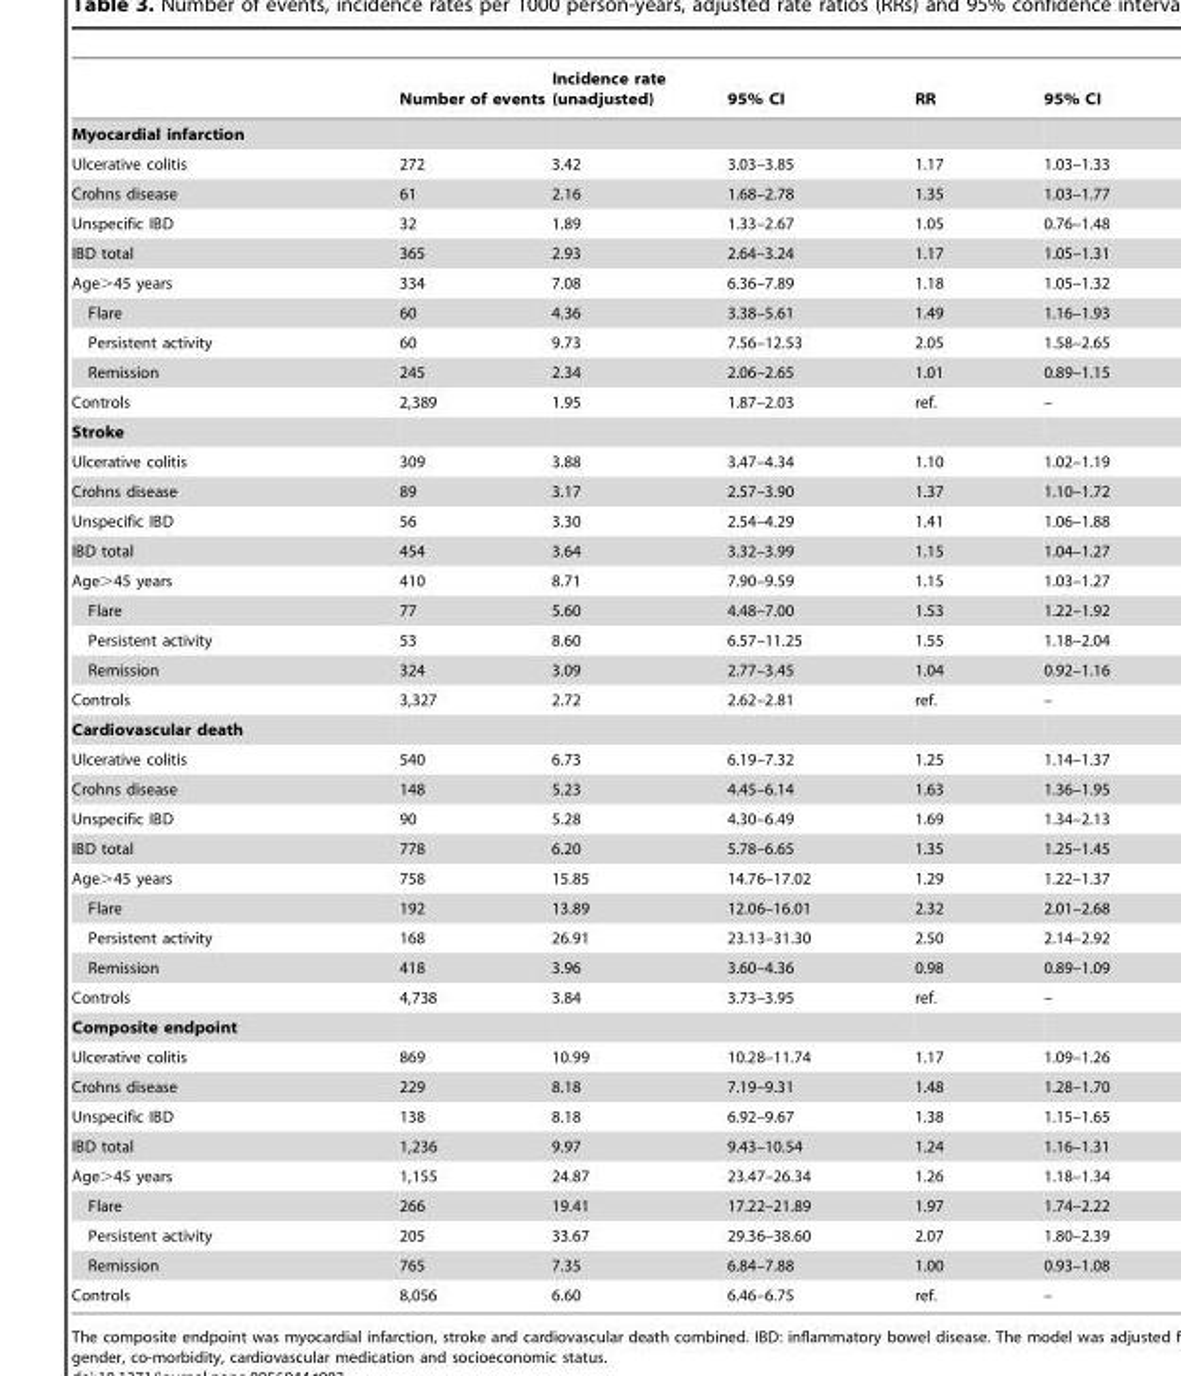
<table><thead><tr><td></td><td>Number of events</td><td>Incidence rate (unadjusted)</td><td>95% CI</td><td>RR</td><td>95% CI</td></tr></thead><tbody><tr><td colspan="6">Myocardial infarction</td></tr><tr><td>Ulcerative colitis</td><td>272</td><td>3.42</td><td>3.03–3.85</td><td>1.17</td><td>1.03–1.33</td></tr><tr><td>Crohns disease</td><td>61</td><td>2.16</td><td>1.68–2.78</td><td>1.35</td><td>1.03–1.77</td></tr><tr><td>Unspecific IBD</td><td>32</td><td>1.89</td><td>1.33–2.67</td><td>1.05</td><td>0.76–1.48</td></tr><tr><td>IBD total</td><td>365</td><td>2.93</td><td>2.64–3.24</td><td>1.17</td><td>1.05–1.31</td></tr><tr><td>Age&gt;45 years</td><td>334</td><td>7.08</td><td>6.36–7.89</td><td>1.18</td><td>1.05–1.32</td></tr><tr><td>Flare</td><td>60</td><td>4.36</td><td>3.38–5.61</td><td>1.49</td><td>1.16–1.93</td></tr><tr><td>Persistent activity</td><td>60</td><td>9.73</td><td>7.56–12.53</td><td>2.05</td><td>1.58–2.65</td></tr><tr><td>Remission</td><td>245</td><td>2.34</td><td>2.06–2.65</td><td>1.01</td><td>0.89–1.15</td></tr><tr><td>Controls</td><td>2,389</td><td>1.95</td><td>1.87–2.03</td><td>ref.</td><td>–</td></tr><tr><td colspan="6">Stroke</td></tr><tr><td>Ulcerative colitis</td><td>309</td><td>3.88</td><td>3.47–4.34</td><td>1.10</td><td>1.02–1.19</td></tr><tr><td>Crohns disease</td><td>89</td><td>3.17</td><td>2.57–3.90</td><td>1.37</td><td>1.10–1.72</td></tr><tr><td>Unspecific IBD</td><td>56</td><td>3.30</td><td>2.54–4.29</td><td>1.41</td><td>1.06–1.88</td></tr><tr><td>IBD total</td><td>454</td><td>3.64</td><td>3.32–3.99</td><td>1.15</td><td>1.04–1.27</td></tr><tr><td>Age&gt;45 years</td><td>410</td><td>8.71</td><td>7.90–9.59</td><td>1.15</td><td>1.03–1.27</td></tr><tr><td>Flare</td><td>77</td><td>5.60</td><td>4.48–7.00</td><td>1.53</td><td>1.22–1.92</td></tr><tr><td>Persistent activity</td><td>53</td><td>8.60</td><td>6.57–11.25</td><td>1.55</td><td>1.18–2.04</td></tr><tr><td>Remission</td><td>324</td><td>3.09</td><td>2.77–3.45</td><td>1.04</td><td>0.92–1.16</td></tr><tr><td>Controls</td><td>3,327</td><td>2.72</td><td>2.62–2.81</td><td>ref.</td><td>–</td></tr><tr><td colspan="6">Cardiovascular death</td></tr><tr><td>Ulcerative colitis</td><td>540</td><td>6.73</td><td>6.19–7.32</td><td>1.25</td><td>1.14–1.37</td></tr><tr><td>Crohns disease</td><td>148</td><td>5.23</td><td>4.45–6.14</td><td>1.63</td><td>1.36–1.95</td></tr><tr><td>Unspecific IBD</td><td>90</td><td>5.28</td><td>4.30–6.49</td><td>1.69</td><td>1.34–2.13</td></tr><tr><td>IBD total</td><td>778</td><td>6.20</td><td>5.78–6.65</td><td>1.35</td><td>1.25–1.45</td></tr><tr><td>Age&gt;45 years</td><td>758</td><td>15.85</td><td>14.76–17.02</td><td>1.29</td><td>1.22–1.37</td></tr><tr><td>Flare</td><td>192</td><td>13.89</td><td>12.06–16.01</td><td>2.32</td><td>2.01–2.68</td></tr><tr><td>Persistent activity</td><td>168</td><td>26.91</td><td>23.13–31.30</td><td>2.50</td><td>2.14–2.92</td></tr><tr><td>Remission</td><td>418</td><td>3.96</td><td>3.60–4.36</td><td>0.98</td><td>0.89–1.09</td></tr><tr><td>Controls</td><td>4,738</td><td>3.84</td><td>3.73–3.95</td><td>ref.</td><td>–</td></tr><tr><td colspan="6">Composite endpoint</td></tr><tr><td>Ulcerative colitis</td><td>869</td><td>10.99</td><td>10.28–11.74</td><td>1.17</td><td>1.09–1.26</td></tr><tr><td>Crohns disease</td><td>229</td><td>8.18</td><td>7.19–9.31</td><td>1.48</td><td>1.28–1.70</td></tr><tr><td>Unspecific IBD</td><td>138</td><td>8.18</td><td>6.92–9.67</td><td>1.38</td><td>1.15–1.65</td></tr><tr><td>IBD total</td><td>1,236</td><td>9.97</td><td>9.43–10.54</td><td>1.24</td><td>1.16–1.31</td></tr><tr><td>Age&gt;45 years</td><td>1,155</td><td>24.87</td><td>23.47–26.34</td><td>1.26</td><td>1.18–1.34</td></tr><tr><td>Flare</td><td>266</td><td>19.41</td><td>17.22–21.89</td><td>1.97</td><td>1.74–2.22</td></tr><tr><td>Persistent activity</td><td>205</td><td>33.67</td><td>29.36–38.60</td><td>2.07</td><td>1.80–2.39</td></tr><tr><td>Remission</td><td>765</td><td>7.35</td><td>6.84–7.88</td><td>1.00</td><td>0.93–1.08</td></tr><tr><td>Controls</td><td>8,056</td><td>6.60</td><td>6.46–6.75</td><td>ref.</td><td>–</td></tr></tbody></table>